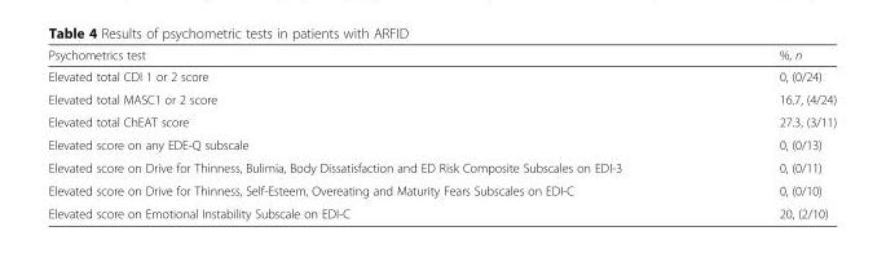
<table><thead><tr><td>Psychometrics test</td><td>%, n</td></tr></thead><tbody><tr><td>Elevated total CDI 1 or 2 score</td><td>0, (0/24)</td></tr><tr><td>Elevated total MASC1 or 2 score</td><td>16.7, (4/24)</td></tr><tr><td>Elevated total ChEAT score</td><td>27.3, (3/11)</td></tr><tr><td>Elevated score on any EDE-Q subscale</td><td>0, (0/13)</td></tr><tr><td>Elevated score on Drive for Thinness, Bulimia, Body Dissatisfaction and ED Risk Composite Subscales on EDI-3</td><td>0, (0/11)</td></tr><tr><td>Elevated score on Drive for Thinness, Self-Esteem, Overeating and Maturity Fears Subscales on EDI-C</td><td>0, (0/10)</td></tr><tr><td>Elevated score on Emotional Instability Subscale on EDI-C</td><td>20, (2/10)</td></tr></tbody></table>